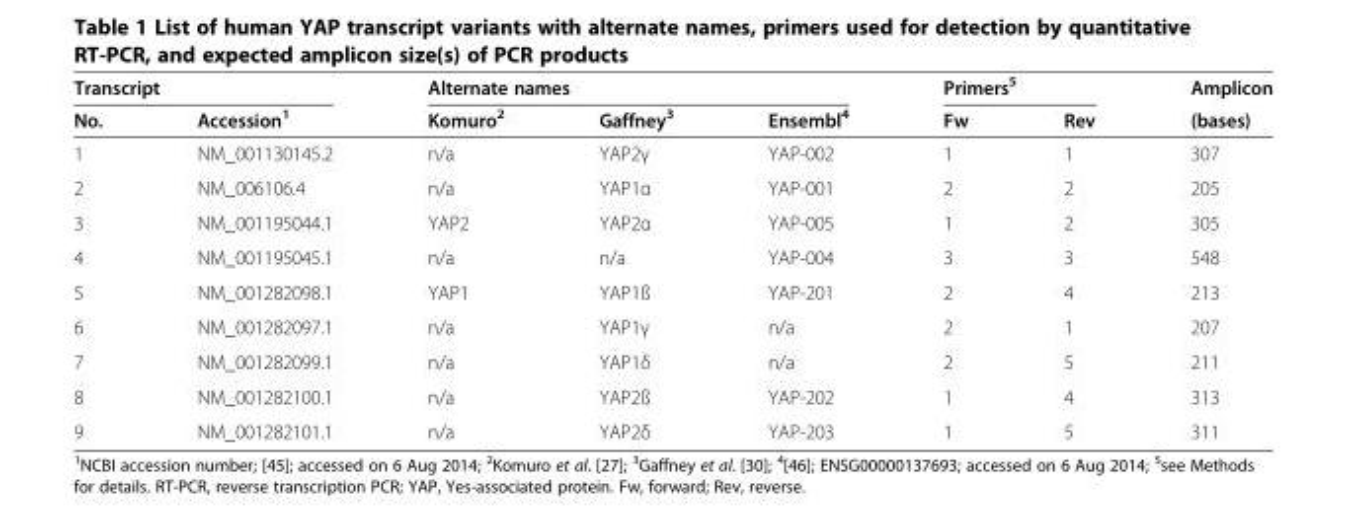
<table><thead><tr><td colspan="2">Transcript</td><td colspan="3">Alternate names</td><td colspan="2">Primers<sup>5</sup></td><td rowspan="2">Amplicon (bases)</td></tr><tr><td>No.</td><td>Accession<sup>1</sup></td><td>Komuro<sup>2</sup></td><td>Gaffney<sup>3</sup></td><td>Ensembl<sup>4</sup></td><td>Fw</td><td>Rev</td></tr></thead><tbody><tr><td>1</td><td>NM_001130145.2</td><td>n/a</td><td>YAP2γ</td><td>YAP-002</td><td>1</td><td>1</td><td>307</td></tr><tr><td>2</td><td>NM_006106.4</td><td>n/a</td><td>YAP1α</td><td>YAP-001</td><td>2</td><td>2</td><td>205</td></tr><tr><td>3</td><td>NM_001195044.1</td><td>YAP2</td><td>YAP2α</td><td>YAP-005</td><td>1</td><td>2</td><td>305</td></tr><tr><td>4</td><td>NM_001195045.1</td><td>n/a</td><td>n/a</td><td>YAP-004</td><td>3</td><td>3</td><td>548</td></tr><tr><td>5</td><td>NM_001282098.1</td><td>YAP1</td><td>YAP1ß</td><td>YAP-201</td><td>2</td><td>4</td><td>213</td></tr><tr><td>6</td><td>NM_001282097.1</td><td>n/a</td><td>YAP1γ</td><td>n/a</td><td>2</td><td>1</td><td>207</td></tr><tr><td>7</td><td>NM_001282099.1</td><td>n/a</td><td>YAP1δ</td><td>n/a</td><td>2</td><td>5</td><td>211</td></tr><tr><td>8</td><td>NM_001282100.1</td><td>n/a</td><td>YAP2ß</td><td>YAP-202</td><td>1</td><td>4</td><td>313</td></tr><tr><td>9</td><td>NM_001282101.1</td><td>n/a</td><td>YAP2δ</td><td>YAP-203</td><td>1</td><td>5</td><td>311</td></tr></tbody></table>